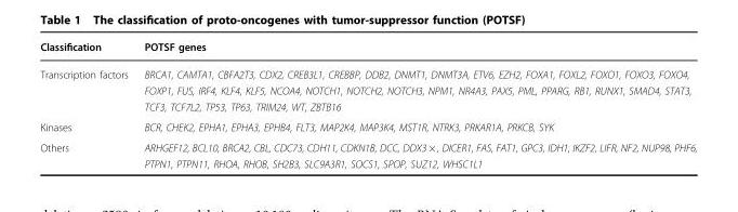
<table><thead><tr><td>Classification</td><td>POTSF genes</td></tr></thead><tbody><tr><td>Transcription factors</td><td>BRCA1, CAMTA1, CBFA2T3, CDX2, CREB3L1, CREBBP, DDB2, DNMT1, DNMT3A, ETV6, EZH2, FOXA1, FOXL2, FOXO1, FOXO3, FOXO4, FOXP1, FUS, IRF4, KLF4, KLF5, NCOA4, NOTCH1, NOTCH2, NOTCH3, NPM1, NR4A3, PAX5, PML, PPARG, RB1, RUNX1, SMAD4, STAT3, TCF3, TCF7L2, TP53, TP63, TRIM24, WT, ZBTB16</td></tr><tr><td>Kinases</td><td>BCR, CHEK2, EPHA1, EPHA3, EPHB4, FLT3, MAP2K4, MAP3K4, MST1R, NTRK3, PRKAR1A, PRKCB, SYK</td></tr><tr><td>Others</td><td>ARHGEF12, BCL10, BRCA2, CBL, CDC73, CDH11, CDKN1B, DCC, DDX3 × , DICER1, FAS, FAT1, GPC3, IDH1, IKZF2, LIFR, NF2, NUP98, PHF6, PTPN1, PTPN11, RHOA, RHOB, SH2B3, SLC9A3R1, SOCS1, SPOP, SUZ12, WHSC1L1</td></tr></tbody></table>